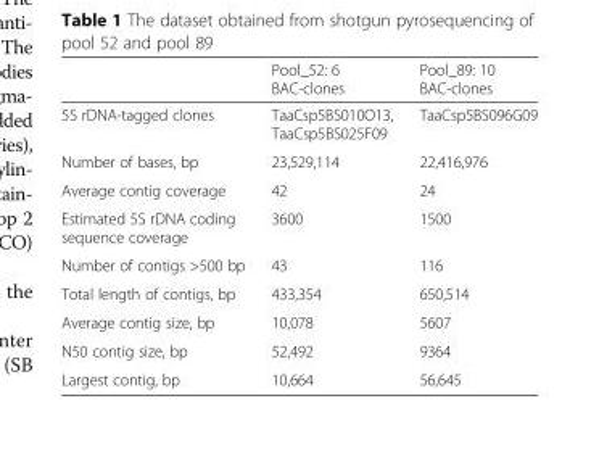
<table><thead><tr><td></td><td>Pool_52: 6 BAC-clones</td><td>Pool_89: 10 BAC-clones</td></tr></thead><tbody><tr><td>5S rDNA-tagged clones</td><td>TaaCsp5BS010O13, TaaCsp5BS025F09</td><td>TaaCsp5BS096G09</td></tr><tr><td>Number of bases, bp</td><td>23,529,114</td><td>22,416,976</td></tr><tr><td>Average contig coverage</td><td>42</td><td>24</td></tr><tr><td>Estimated 5S rDNA coding sequence coverage</td><td>3600</td><td>1500</td></tr><tr><td>Number of contigs &gt;500 bp</td><td>43</td><td>116</td></tr><tr><td>Total length of contigs, bp</td><td>433,354</td><td>650,514</td></tr><tr><td>Average contig size, bp</td><td>10,078</td><td>5607</td></tr><tr><td>N50 contig size, bp</td><td>52,492</td><td>9364</td></tr><tr><td>Largest contig, bp</td><td>10,664</td><td>56,645</td></tr></tbody></table>